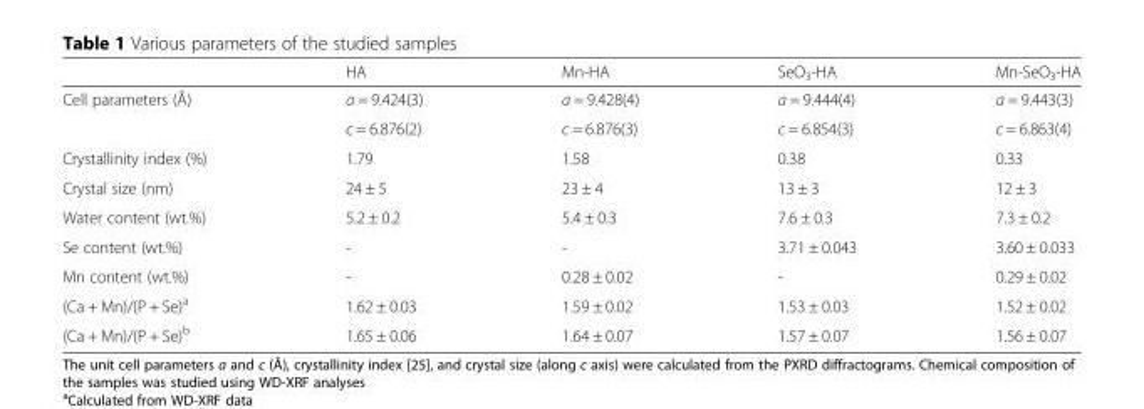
<table><thead><tr><td></td><td>HA</td><td>Mn-HA</td><td>SeO<sub>3</sub>-HA</td><td>Mn-SeO<sub>3</sub>-HA</td></tr></thead><tbody><tr><td rowspan="2">Cell parameters (Å)</td><td>a = 9.424(3)</td><td>a = 9.428(4)</td><td>a = 9.444(4)</td><td>a = 9.443(3)</td></tr><tr><td>c = 6.876(2)</td><td>c = 6.876(3)</td><td>c = 6.854(3)</td><td>c = 6.863(4)</td></tr><tr><td>Crystallinity index (%)</td><td>1.79</td><td>1.58</td><td>0.38</td><td>0.33</td></tr><tr><td>Crystal size (nm)</td><td>24 ± 5</td><td>23 ± 4</td><td>13 ± 3</td><td>12 ± 3</td></tr><tr><td>Water content (wt.%)</td><td>5.2 ± 0.2</td><td>5.4 ± 0.3</td><td>7.6 ± 0.3</td><td>7.3 ± 0.2</td></tr><tr><td>Se content (wt.%)</td><td>-</td><td>-</td><td>3.71 ± 0.043</td><td>3.60 ± 0.033</td></tr><tr><td>Mn content (wt.%)</td><td>-</td><td>0.28 ± 0.02</td><td>-</td><td>0.29 ± 0.02</td></tr><tr><td>(Ca + Mn)/(P + Se)<sup>a</sup></td><td>1.62 ± 0.03</td><td>1.59 ± 0.02</td><td>1.53 ± 0.03</td><td>1.52 ± 0.02</td></tr><tr><td>(Ca + Mn)/(P + Se)<sup>b</sup></td><td>1.65 ± 0.06</td><td>1.64 ± 0.07</td><td>1.57 ± 0.07</td><td>1.56 ± 0.07</td></tr></tbody></table>